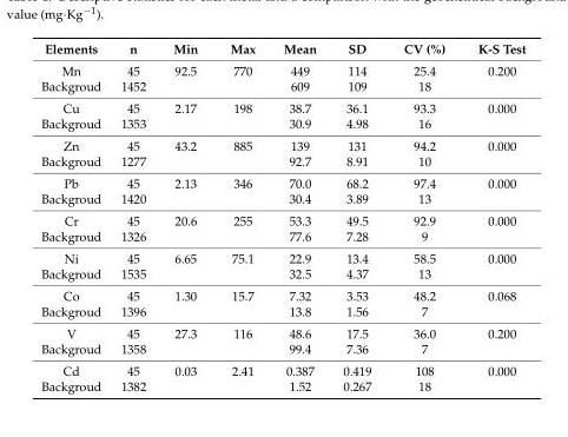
<table><thead><tr><td>Elements</td><td>n</td><td>Min</td><td>Max</td><td>Mean</td><td>SD</td><td>CV (%)</td><td>K-S Test</td></tr></thead><tbody><tr><td>Mn</td><td>45</td><td>92.5</td><td>770</td><td>449</td><td>114</td><td>25.4</td><td>0.200</td></tr><tr><td>Backgroud</td><td>1452</td><td></td><td></td><td>609</td><td>109</td><td>18</td><td></td></tr><tr><td>Cu</td><td>45</td><td>2.17</td><td>198</td><td>38.7</td><td>36.1</td><td>93.3</td><td>0.000</td></tr><tr><td>Backgroud</td><td>1353</td><td></td><td></td><td>30.9</td><td>4.98</td><td>16</td><td></td></tr><tr><td>Zn</td><td>45</td><td>43.2</td><td>885</td><td>139</td><td>131</td><td>94.2</td><td>0.000</td></tr><tr><td>Backgroud</td><td>1277</td><td></td><td></td><td>92.7</td><td>8.91</td><td>10</td><td></td></tr><tr><td>Pb</td><td>45</td><td>2.13</td><td>346</td><td>70.0</td><td>68.2</td><td>97.4</td><td>0.000</td></tr><tr><td>Backgroud</td><td>1420</td><td></td><td></td><td>30.4</td><td>3.89</td><td>13</td><td></td></tr><tr><td>Cr</td><td>45</td><td>20.6</td><td>255</td><td>53.3</td><td>49.5</td><td>92.9</td><td>0.000</td></tr><tr><td>Backgroud</td><td>1326</td><td></td><td></td><td>77.6</td><td>7.28</td><td>9</td><td></td></tr><tr><td>Ni</td><td>45</td><td>6.65</td><td>75.1</td><td>22.9</td><td>13.4</td><td>58.5</td><td>0.000</td></tr><tr><td>Backgroud</td><td>1535</td><td></td><td></td><td>32.5</td><td>4.37</td><td>13</td><td></td></tr><tr><td>Co</td><td>45</td><td>1.30</td><td>15.7</td><td>7.32</td><td>3.53</td><td>48.2</td><td>0.068</td></tr><tr><td>Backgroud</td><td>1396</td><td></td><td></td><td>13.8</td><td>1.56</td><td>7</td><td></td></tr><tr><td>V</td><td>45</td><td>27.3</td><td>116</td><td>48.6</td><td>17.5</td><td>36.0</td><td>0.200</td></tr><tr><td>Backgroud</td><td>1358</td><td></td><td></td><td>99.4</td><td>7.36</td><td>7</td><td></td></tr><tr><td>Cd</td><td>45</td><td>0.03</td><td>2.41</td><td>0.387</td><td>0.419</td><td>108</td><td>0.000</td></tr><tr><td>Backgroud</td><td>1382</td><td></td><td></td><td>1.52</td><td>0.267</td><td>18</td><td></td></tr></tbody></table>